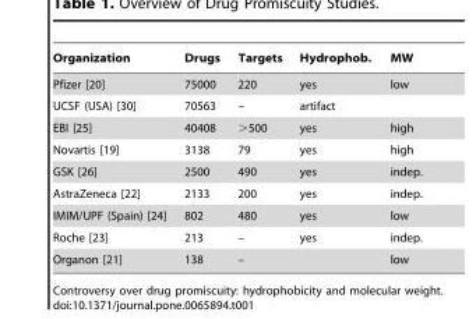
<table><thead><tr><td>Organization</td><td>Drugs</td><td>Targets</td><td>Hydrophob.</td><td>MW</td></tr></thead><tbody><tr><td>Pfizer [20]</td><td>75000</td><td>220</td><td>yes</td><td>low</td></tr><tr><td>UCSF (USA) [30]</td><td>70563</td><td>–</td><td>artifact</td><td></td></tr><tr><td>EBI [25]</td><td>40408</td><td>&gt;500</td><td>yes</td><td>high</td></tr><tr><td>Novartis [19]</td><td>3138</td><td>79</td><td>yes</td><td>high</td></tr><tr><td>GSK [26]</td><td>2500</td><td>490</td><td>yes</td><td>indep.</td></tr><tr><td>AstraZeneca [22]</td><td>2133</td><td>200</td><td>yes</td><td>indep.</td></tr><tr><td>IMIM/UPF (Spain) [24]</td><td>802</td><td>480</td><td>yes</td><td>low</td></tr><tr><td>Roche [23]</td><td>213</td><td>–</td><td>yes</td><td>indep.</td></tr><tr><td>Organon [21]</td><td>138</td><td>–</td><td></td><td>low</td></tr></tbody></table>